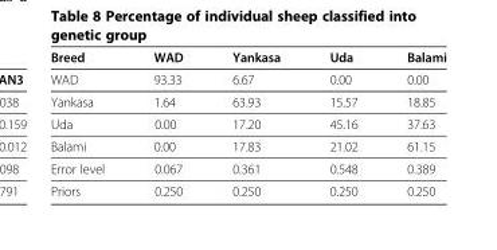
<table><thead><tr><td>Breed</td><td>WAD</td><td>Yankasa</td><td>Uda</td><td>Balami</td></tr></thead><tbody><tr><td>WAD</td><td>93.33</td><td>6.67</td><td>0.00</td><td>0.00</td></tr><tr><td>Yankasa</td><td>1.64</td><td>63.93</td><td>15.57</td><td>18.85</td></tr><tr><td>Uda</td><td>0.00</td><td>17.20</td><td>45.16</td><td>37.63</td></tr><tr><td>Balami</td><td>0.00</td><td>17.83</td><td>21.02</td><td>61.15</td></tr><tr><td>Error level</td><td>0.067</td><td>0.361</td><td>0.548</td><td>0.389</td></tr><tr><td>Priors</td><td>0.250</td><td>0.250</td><td>0.250</td><td>0.250</td></tr></tbody></table>